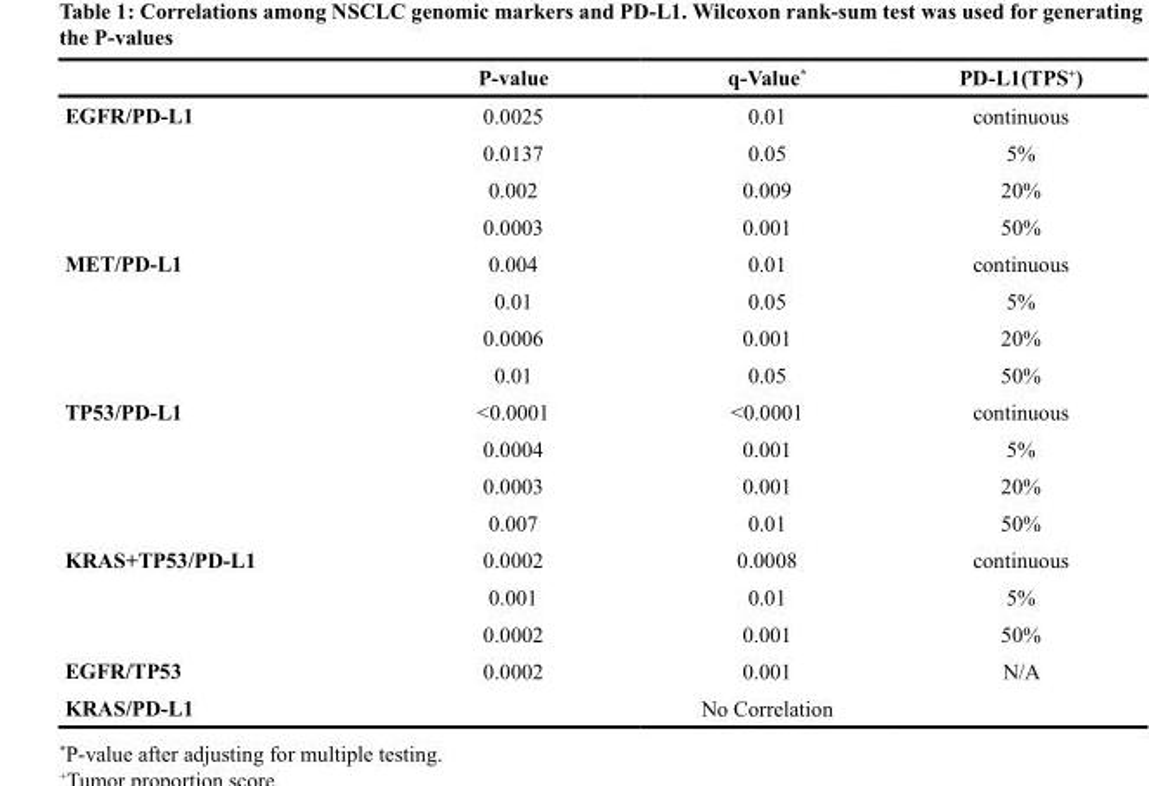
<table><thead><tr><td></td><td>P-value</td><td>q-Value*</td><td>PD-L1(TPS<sup>+</sup>)</td></tr></thead><tbody><tr><td rowspan="4">EGFR/PD-L1</td><td>0.0025</td><td>0.01</td><td>continuous</td></tr><tr><td>0.0137</td><td>0.05</td><td>5%</td></tr><tr><td>0.002</td><td>0.009</td><td>20%</td></tr><tr><td>0.0003</td><td>0.001</td><td>50%</td></tr><tr><td rowspan="4">MET/PD-L1</td><td>0.004</td><td>0.01</td><td>continuous</td></tr><tr><td>0.01</td><td>0.05</td><td>5%</td></tr><tr><td>0.0006</td><td>0.001</td><td>20%</td></tr><tr><td>0.01</td><td>0.05</td><td>50%</td></tr><tr><td rowspan="4">TP53/PD-L1</td><td>&lt;0.0001</td><td>&lt;0.0001</td><td>continuous</td></tr><tr><td>0.0004</td><td>0.001</td><td>5%</td></tr><tr><td>0.0003</td><td>0.001</td><td>20%</td></tr><tr><td>0.007</td><td>0.01</td><td>50%</td></tr><tr><td rowspan="3">KRAS+TP53/PD-L1</td><td>0.0002</td><td>0.0008</td><td>continuous</td></tr><tr><td>0.001</td><td>0.01</td><td>5%</td></tr><tr><td>0.0002</td><td>0.001</td><td>50%</td></tr><tr><td>EGFR/TP53</td><td>0.0002</td><td>0.001</td><td>N/A</td></tr><tr><td>KRAS/PD-L1</td><td colspan="3">No Correlation</td></tr></tbody></table>